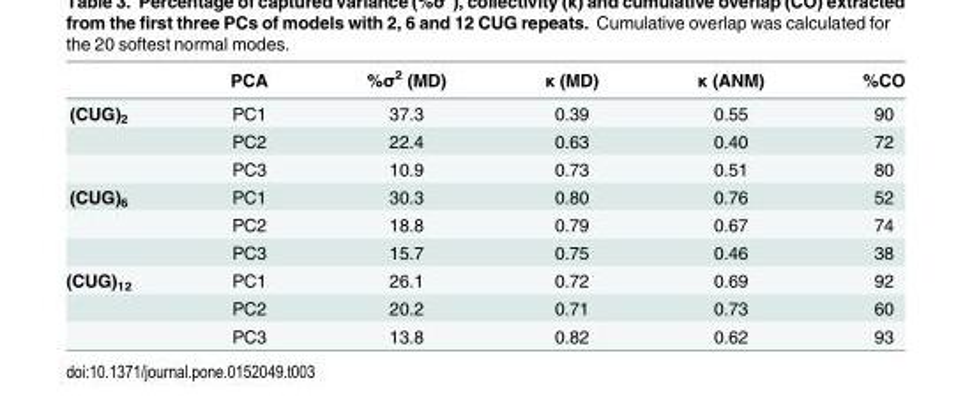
<table><thead><tr><td></td><td>PCA</td><td>%σ<sup>2</sup> (MD)</td><td>κ (MD)</td><td>κ (ANM)</td><td>%CO</td></tr></thead><tbody><tr><td rowspan="3">(CUG)<sub>2</sub></td><td>PC1</td><td>37.3</td><td>0.39</td><td>0.55</td><td>90</td></tr><tr><td>PC2</td><td>22.4</td><td>0.63</td><td>0.40</td><td>72</td></tr><tr><td>PC3</td><td>10.9</td><td>0.73</td><td>0.51</td><td>80</td></tr><tr><td rowspan="3">(CUG)<sub>6</sub></td><td>PC1</td><td>30.3</td><td>0.80</td><td>0.76</td><td>52</td></tr><tr><td>PC2</td><td>18.8</td><td>0.79</td><td>0.67</td><td>74</td></tr><tr><td>PC3</td><td>15.7</td><td>0.75</td><td>0.46</td><td>38</td></tr><tr><td rowspan="3">(CUG)<sub>12</sub></td><td>PC1</td><td>26.1</td><td>0.72</td><td>0.69</td><td>92</td></tr><tr><td>PC2</td><td>20.2</td><td>0.71</td><td>0.73</td><td>60</td></tr><tr><td>PC3</td><td>13.8</td><td>0.82</td><td>0.62</td><td>93</td></tr></tbody></table>